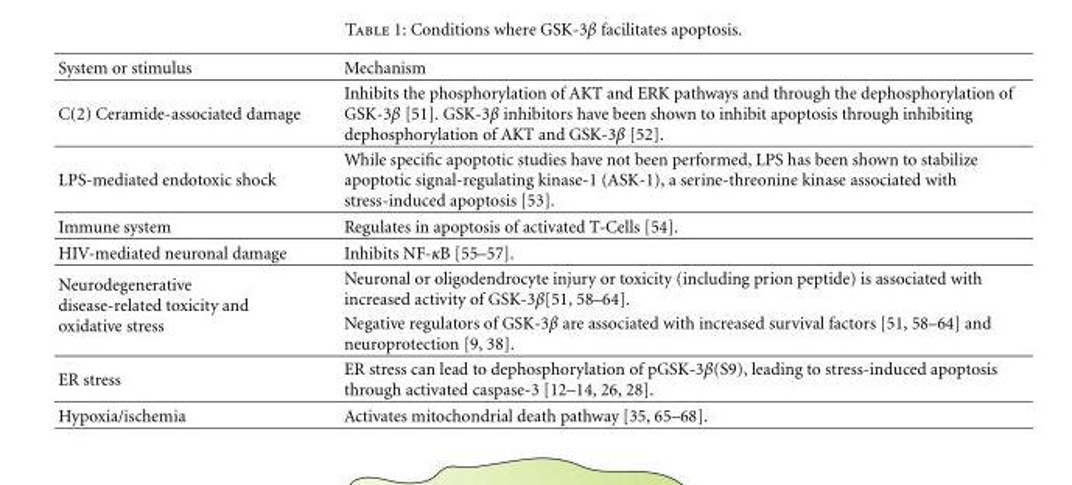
<table><thead><tr><td>System or stimulus</td><td>Mechanism</td></tr></thead><tbody><tr><td>C(2) Ceramide-associated damage</td><td>Inhibits the phosphorylation of AKT and ERK pathways and through the dephosphorylation of GSK-3β [51]. GSK-3β inhibitors have been shown to inhibit apoptosis through inhibiting dephosphorylation of AKT and GSK-3β [52].</td></tr><tr><td>LPS-mediated endotoxic shock</td><td>While specific apoptotic studies have not been performed, LPS has been shown to stabilize apoptotic signal-regulating kinase-1 (ASK-1), a serine-threonine kinase associated with stress-induced apoptosis [53].</td></tr><tr><td>Immune system</td><td>Regulates in apoptosis of activated T-Cells [54].</td></tr><tr><td>HIV-mediated neuronal damage</td><td>Inhibits NF-κB [55–57].</td></tr><tr><td rowspan="2">Neurodegenerative disease-related toxicity and oxidative stress</td><td>Neuronal or oligodendrocyte injury or toxicity (including prion peptide) is associated with increased activity of GSK-3β[51, 58–64].</td></tr><tr><td>Negative regulators of GSK-3β are associated with increased survival factors [51, 58–64] and neuroprotection [9, 38].</td></tr><tr><td>ER stress</td><td>ER stress can lead to dephosphorylation of pGSK-3β(S9), leading to stress-induced apoptosis through activated caspase-3 [12–14, 26, 28].</td></tr><tr><td>Hypoxia/ischemia</td><td>Activates mitochondrial death pathway [35, 65–68].</td></tr></tbody></table>